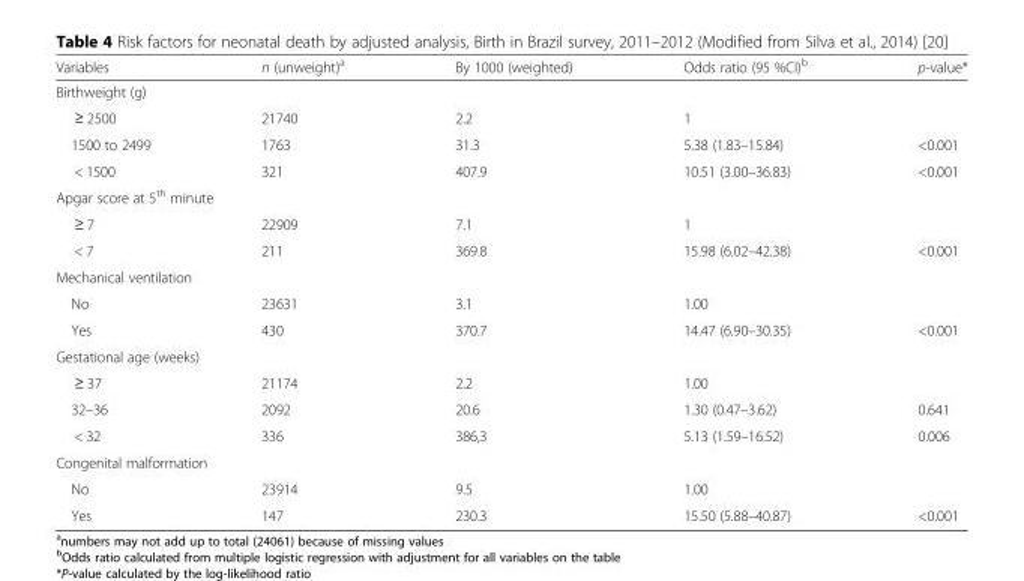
<table><thead><tr><td>Variables</td><td>n (unweight)<sup>a</sup></td><td>By 1000 (weighted)</td><td>Odds ratio (95 %CI)<sup>b</sup></td><td>p-value*</td></tr></thead><tbody><tr><td colspan="5">Birthweight (g)</td></tr><tr><td>≥ 2500</td><td>21740</td><td>2.2</td><td>1</td><td></td></tr><tr><td>1500 to 2499</td><td>1763</td><td>31.3</td><td>5.38 (1.83–15.84)</td><td>&lt;0.001</td></tr><tr><td>&lt; 1500</td><td>321</td><td>407.9</td><td>10.51 (3.00–36.83)</td><td>&lt;0.001</td></tr><tr><td colspan="5">Apgar score at 5<sup>th</sup> minute</td></tr><tr><td>≥ 7</td><td>22909</td><td>7.1</td><td>1</td><td></td></tr><tr><td>&lt; 7</td><td>211</td><td>369.8</td><td>15.98 (6.02–42.38)</td><td>&lt;0.001</td></tr><tr><td colspan="5">Mechanical ventilation</td></tr><tr><td>No</td><td>23631</td><td>3.1</td><td>1.00</td><td></td></tr><tr><td>Yes</td><td>430</td><td>370.7</td><td>14.47 (6.90–30.35)</td><td>&lt;0.001</td></tr><tr><td colspan="5">Gestational age (weeks)</td></tr><tr><td>≥ 37</td><td>21174</td><td>2.2</td><td>1.00</td><td></td></tr><tr><td>32–36</td><td>2092</td><td>20.6</td><td>1.30 (0.47–3.62)</td><td>0.641</td></tr><tr><td>&lt; 32</td><td>336</td><td>386,3</td><td>5.13 (1.59–16.52)</td><td>0.006</td></tr><tr><td colspan="5">Congenital malformation</td></tr><tr><td>No</td><td>23914</td><td>9.5</td><td>1.00</td><td></td></tr><tr><td>Yes</td><td>147</td><td>230.3</td><td>15.50 (5.88–40.87)</td><td>&lt;0.001</td></tr></tbody></table>